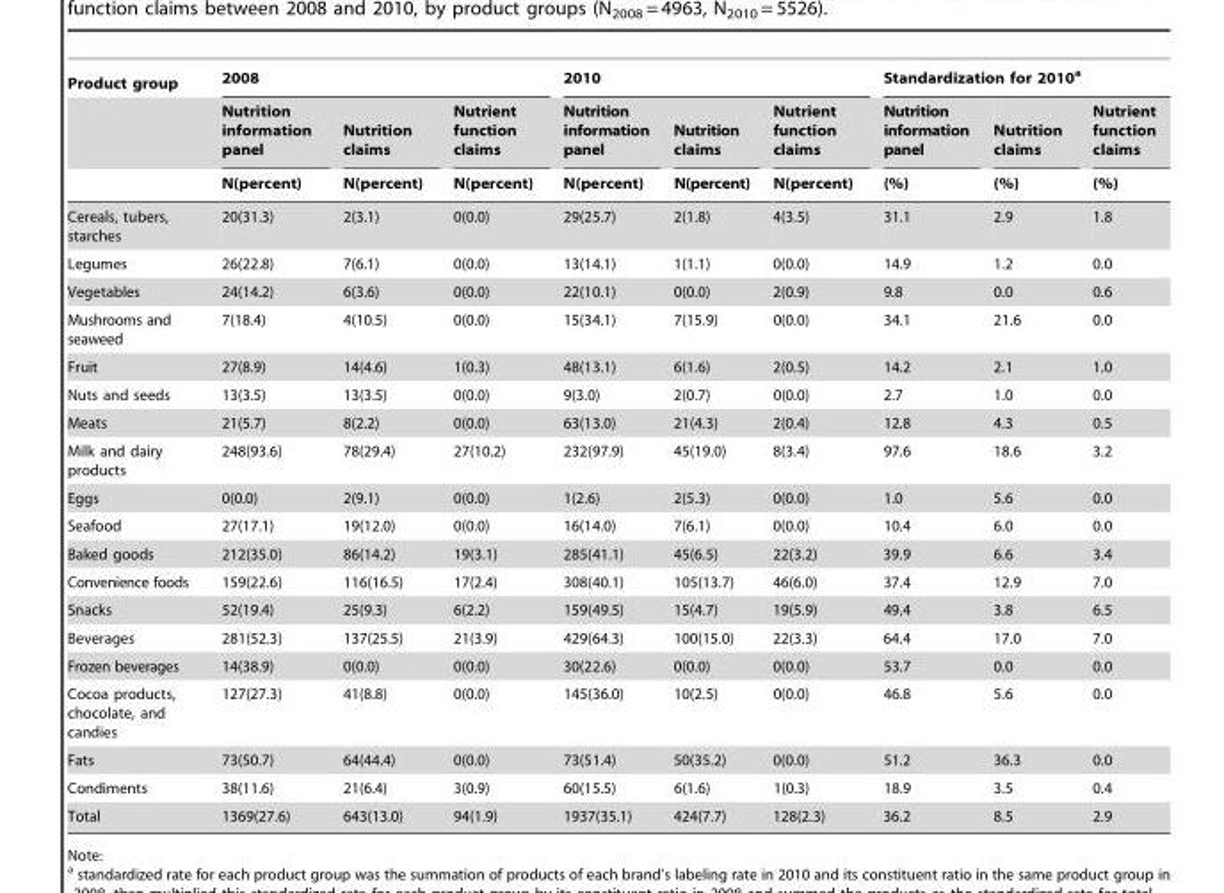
<table><thead><tr><td rowspan="3">Product group</td><td colspan="3">2008</td><td colspan="3">2010</td><td colspan="3">Standardization for 2010<sup>a</sup></td></tr><tr><td rowspan="2">Nutrition information panel N(percent)</td><td rowspan="2">Nutrition claims N(percent)</td><td rowspan="2">Nutrient function claims N(percent)</td><td rowspan="2">Nutrition information panel N(percent)</td><td rowspan="2">Nutrition claims N(percent)</td><td rowspan="2">Nutrient function claims N(percent)</td><td rowspan="2">Nutrition information panel (%)</td><td rowspan="2">Nutrition claims (%)</td><td rowspan="2">Nutrient function claims (%)</td></tr><tr></tr></thead><tbody><tr><td>Cereals, tubers, starches</td><td>20(31.3)</td><td>2(3.1)</td><td>0(0.0)</td><td>29(25.7)</td><td>2(1.8)</td><td>4(3.5)</td><td>31.1</td><td>2.9</td><td>1.8</td></tr><tr><td>Legumes</td><td>26(22.8)</td><td>7(6.1)</td><td>0(0.0)</td><td>13(14.1)</td><td>1(1.1)</td><td>0(0.0)</td><td>14.9</td><td>1.2</td><td>0.0</td></tr><tr><td>Vegetables</td><td>24(14.2)</td><td>6(3.6)</td><td>0(0.0)</td><td>22(10.1)</td><td>0(0.0)</td><td>2(0.9)</td><td>9.8</td><td>0.0</td><td>0.6</td></tr><tr><td>Mushrooms and seaweed</td><td>7(18.4)</td><td>4(10.5)</td><td>0(0.0)</td><td>15(34.1)</td><td>7(15.9)</td><td>0(0.0)</td><td>34.1</td><td>21.6</td><td>0.0</td></tr><tr><td>Fruit</td><td>27(8.9)</td><td>14(4.6)</td><td>1(0.3)</td><td>48(13.1)</td><td>6(1.6)</td><td>2(0.5)</td><td>14.2</td><td>2.1</td><td>1.0</td></tr><tr><td>Nuts and seeds</td><td>13(3.5)</td><td>13(3.5)</td><td>0(0.0)</td><td>9(3.0)</td><td>2(0.7)</td><td>0(0.0)</td><td>2.7</td><td>1.0</td><td>0.0</td></tr><tr><td>Meats</td><td>21(5.7)</td><td>8(2.2)</td><td>0(0.0)</td><td>63(13.0)</td><td>21(4.3)</td><td>2(0.4)</td><td>12.8</td><td>4.3</td><td>0.5</td></tr><tr><td>Milk and dairy products</td><td>248(93.6)</td><td>78(29.4)</td><td>27(10.2)</td><td>232(97.9)</td><td>45(19.0)</td><td>8(3.4)</td><td>97.6</td><td>18.6</td><td>3.2</td></tr><tr><td>Eggs</td><td>0(0.0)</td><td>2(9.1)</td><td>0(0.0)</td><td>1(2.6)</td><td>2(5.3)</td><td>0(0.0)</td><td>1.0</td><td>5.6</td><td>0.0</td></tr><tr><td>Seafood</td><td>27(17.1)</td><td>19(12.0)</td><td>0(0.0)</td><td>16(14.0)</td><td>7(6.1)</td><td>0(0.0)</td><td>10.4</td><td>6.0</td><td>0.0</td></tr><tr><td>Baked goods</td><td>212(35.0)</td><td>86(14.2)</td><td>19(3.1)</td><td>285(41.1)</td><td>45(6.5)</td><td>22(3.2)</td><td>39.9</td><td>6.6</td><td>3.4</td></tr><tr><td>Convenience foods</td><td>159(22.6)</td><td>116(16.5)</td><td>17(2.4)</td><td>308(40.1)</td><td>105(13.7)</td><td>46(6.0)</td><td>37.4</td><td>12.9</td><td>7.0</td></tr><tr><td>Snacks</td><td>52(19.4)</td><td>25(9.3)</td><td>6(2.2)</td><td>159(49.5)</td><td>15(4.7)</td><td>19(5.9)</td><td>49.4</td><td>3.8</td><td>6.5</td></tr><tr><td>Beverages</td><td>281(52.3)</td><td>137(25.5)</td><td>21(3.9)</td><td>429(64.3)</td><td>100(15.0)</td><td>22(3.3)</td><td>64.4</td><td>17.0</td><td>7.0</td></tr><tr><td>Frozen beverages</td><td>14(38.9)</td><td>0(0.0)</td><td>0(0.0)</td><td>30(22.6)</td><td>0(0.0)</td><td>0(0.0)</td><td>53.7</td><td>0.0</td><td>0.0</td></tr><tr><td>Cocoa products, chocolate, and candies</td><td>127(27.3)</td><td>41(8.8)</td><td>0(0.0)</td><td>145(36.0)</td><td>10(2.5)</td><td>0(0.0)</td><td>46.8</td><td>5.6</td><td>0.0</td></tr><tr><td>Fats</td><td>73(50.7)</td><td>64(44.4)</td><td>0(0.0)</td><td>73(51.4)</td><td>50(35.2)</td><td>0(0.0)</td><td>51.2</td><td>36.3</td><td>0.0</td></tr><tr><td>Condiments</td><td>38(11.6)</td><td>21(6.4)</td><td>3(0.9)</td><td>60(15.5)</td><td>6(1.6)</td><td>1(0.3)</td><td>18.9</td><td>3.5</td><td>0.4</td></tr><tr><td>Total</td><td>1369(27.6)</td><td>643(13.0)</td><td>94(1.9)</td><td>1937(35.1)</td><td>424(7.7)</td><td>128(2.3)</td><td>36.2</td><td>8.5</td><td>2.9</td></tr></tbody></table>